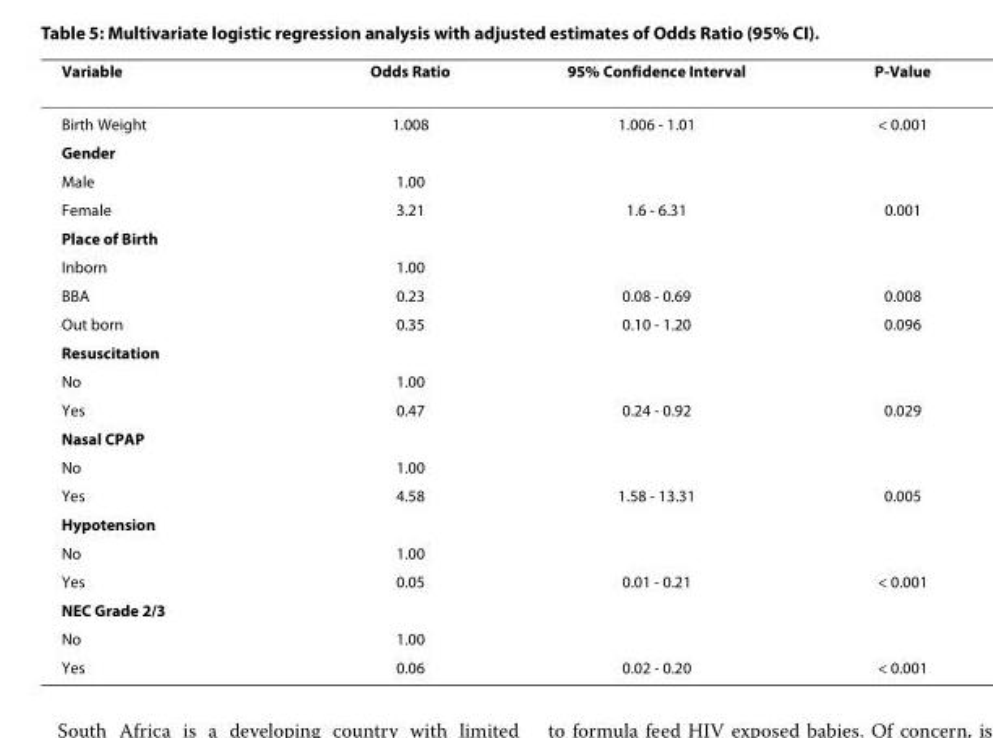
<table><thead><tr><td>Variable</td><td>Odds Ratio</td><td>95% Confidence Interval</td><td>P-Value</td></tr></thead><tbody><tr><td>Birth Weight</td><td>1.008</td><td>1.006 - 1.01</td><td>&lt; 0.001</td></tr><tr><td colspan="4">Gender</td></tr><tr><td>Male</td><td>1.00</td><td></td><td></td></tr><tr><td>Female</td><td>3.21</td><td>1.6 - 6.31</td><td>0.001</td></tr><tr><td colspan="4">Place of Birth</td></tr><tr><td>Inborn</td><td>1.00</td><td></td><td></td></tr><tr><td>BBA</td><td>0.23</td><td>0.08 - 0.69</td><td>0.008</td></tr><tr><td>Out born</td><td>0.35</td><td>0.10 - 1.20</td><td>0.096</td></tr><tr><td colspan="4">Resuscitation</td></tr><tr><td>No</td><td>1.00</td><td></td><td></td></tr><tr><td>Yes</td><td>0.47</td><td>0.24 - 0.92</td><td>0.029</td></tr><tr><td colspan="4">Nasal CPAP</td></tr><tr><td>No</td><td>1.00</td><td></td><td></td></tr><tr><td>Yes</td><td>4.58</td><td>1.58 - 13.31</td><td>0.005</td></tr><tr><td colspan="4">Hypotension</td></tr><tr><td>No</td><td>1.00</td><td></td><td></td></tr><tr><td>Yes</td><td>0.05</td><td>0.01 - 0.21</td><td>&lt; 0.001</td></tr><tr><td colspan="4">NEC Grade 2/3</td></tr><tr><td>No</td><td>1.00</td><td></td><td></td></tr><tr><td>Yes</td><td>0.06</td><td>0.02 - 0.20</td><td>&lt; 0.001</td></tr></tbody></table>